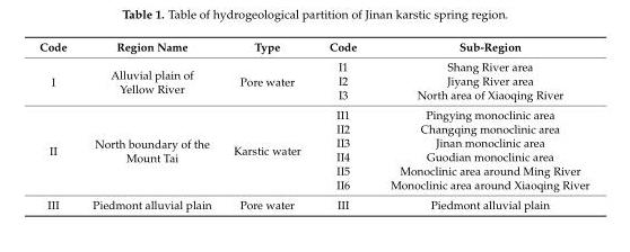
<table><thead><tr><td>Code</td><td>Region Name</td><td>Type</td><td>Code</td><td>Sub-Region</td></tr></thead><tbody><tr><td rowspan="3">I</td><td rowspan="3">Alluvial plain of Yellow River</td><td rowspan="3">Pore water</td><td>I1</td><td>Shang River area</td></tr><tr><td>I2</td><td>Jiyang River area</td></tr><tr><td>I3</td><td>North area of Xiaoqing River</td></tr><tr><td rowspan="6">II</td><td rowspan="6">North boundary of the Mount Tai</td><td rowspan="6">Karstic water</td><td>II1</td><td>Pingying monoclinic area</td></tr><tr><td>II2</td><td>Changqing monoclinic area</td></tr><tr><td>II3</td><td>Jinan monoclinic area</td></tr><tr><td>II4</td><td>Guodian monoclinic area</td></tr><tr><td>II5</td><td>Monoclinic area around Ming River</td></tr><tr><td>II6</td><td>Monoclinic area around Xiaoqing River</td></tr><tr><td>III</td><td>Piedmont alluvial plain</td><td>Pore water</td><td>III</td><td>Piedmont alluvial plain</td></tr></tbody></table>